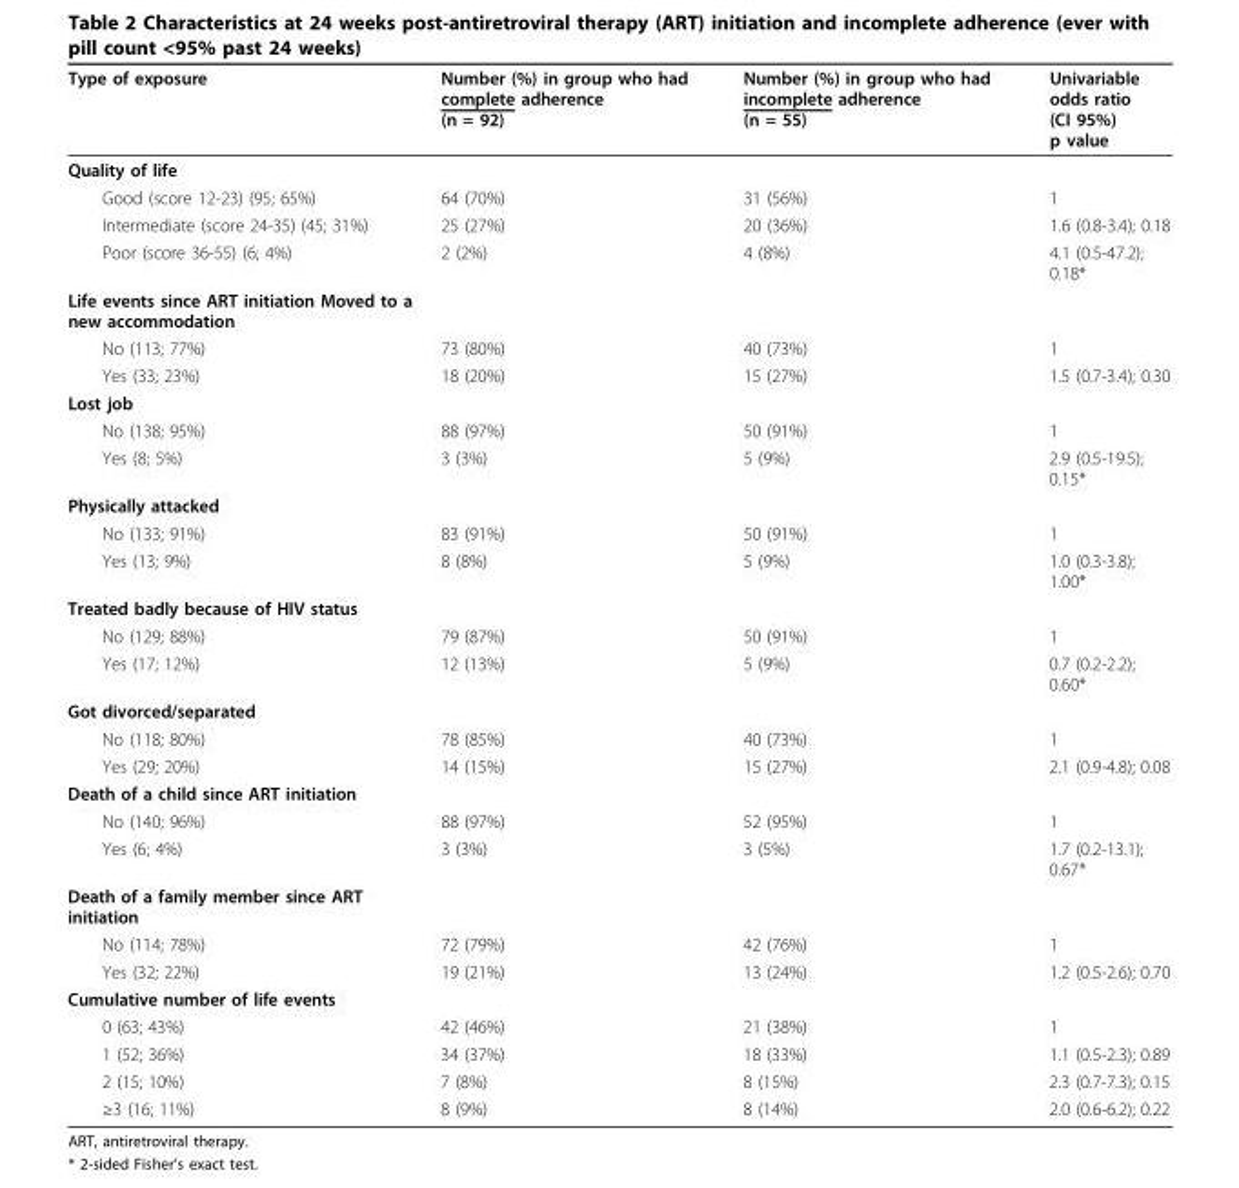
<table><thead><tr><td>Type of exposure</td><td>Number (%) in group who had complete adherence (n = 92)</td><td>Number (%) in group who had incomplete adherence (n = 55)</td><td>Univariable odds ratio (CI 95%) p value</td></tr></thead><tbody><tr><td colspan="4">Quality of life</td></tr><tr><td>Good (score 12-23) (95; 65%)</td><td>64 (70%)</td><td>31 (56%)</td><td>1</td></tr><tr><td>Intermediate (score 24-35) (45; 31%)</td><td>25 (27%)</td><td>20 (36%)</td><td>1.6 (0.8-3.4); 0.18</td></tr><tr><td>Poor (score 36-55) (6; 4%)</td><td>2 (2%)</td><td>4 (8%)</td><td>4.1 (0.5-47.2); 0.18*</td></tr><tr><td colspan="4">Life events since ART initiation Moved to a new accommodation</td></tr><tr><td>No (113; 77%)</td><td>73 (80%)</td><td>40 (73%)</td><td>1</td></tr><tr><td>Yes (33; 23%)</td><td>18 (20%)</td><td>15 (27%)</td><td>1.5 (0.7-3.4); 0.30</td></tr><tr><td colspan="4">Lost job</td></tr><tr><td>No (138; 95%)</td><td>88 (97%)</td><td>50 (91%)</td><td>1</td></tr><tr><td>Yes (8; 5%)</td><td>3 (3%)</td><td>5 (9%)</td><td>2.9 (0.5-19.5); 0.15*</td></tr><tr><td colspan="4">Physically attacked</td></tr><tr><td>No (133; 91%)</td><td>83 (91%)</td><td>50 (91%)</td><td>1</td></tr><tr><td>Yes (13; 9%)</td><td>8 (8%)</td><td>5 (9%)</td><td>1.0 (0.3-3.8); 1.00*</td></tr><tr><td colspan="4">Treated badly because of HIV status</td></tr><tr><td>No (129; 88%)</td><td>79 (87%)</td><td>50 (91%)</td><td>1</td></tr><tr><td>Yes (17; 12%)</td><td>12 (13%)</td><td>5 (9%)</td><td>0.7 (0.2-2.2); 0.60*</td></tr><tr><td colspan="4">Got divorced/separated</td></tr><tr><td>No (118; 80%)</td><td>78 (85%)</td><td>40 (73%)</td><td>1</td></tr><tr><td>Yes (29; 20%)</td><td>14 (15%)</td><td>15 (27%)</td><td>2.1 (0.9-4.8); 0.08</td></tr><tr><td colspan="4">Death of a child since ART initiation</td></tr><tr><td>No (140; 96%)</td><td>88 (97%)</td><td>52 (95%)</td><td>1</td></tr><tr><td>Yes (6; 4%)</td><td>3 (3%)</td><td>3 (5%)</td><td>1.7 (0.2-13.1); 0.67*</td></tr><tr><td colspan="4">Death of a family member since ART initiation</td></tr><tr><td>No (114; 78%)</td><td>72 (79%)</td><td>42 (76%)</td><td>1</td></tr><tr><td>Yes (32; 22%)</td><td>19 (21%)</td><td>13 (24%)</td><td>1.2 (0.5-2.6); 0.70</td></tr><tr><td colspan="4">Cumulative number of life events</td></tr><tr><td>0 (63; 43%)</td><td>42 (46%)</td><td>21 (38%)</td><td>1</td></tr><tr><td>1 (52; 36%)</td><td>34 (37%)</td><td>18 (33%)</td><td>1.1 (0.5-2.3); 0.89</td></tr><tr><td>2 (15; 10%)</td><td>7 (8%)</td><td>8 (15%)</td><td>2.3 (0.7-7.3); 0.15</td></tr><tr><td>≥3 (16; 11%)</td><td>8 (9%)</td><td>8 (14%)</td><td>2.0 (0.6-6.2); 0.22</td></tr></tbody></table>